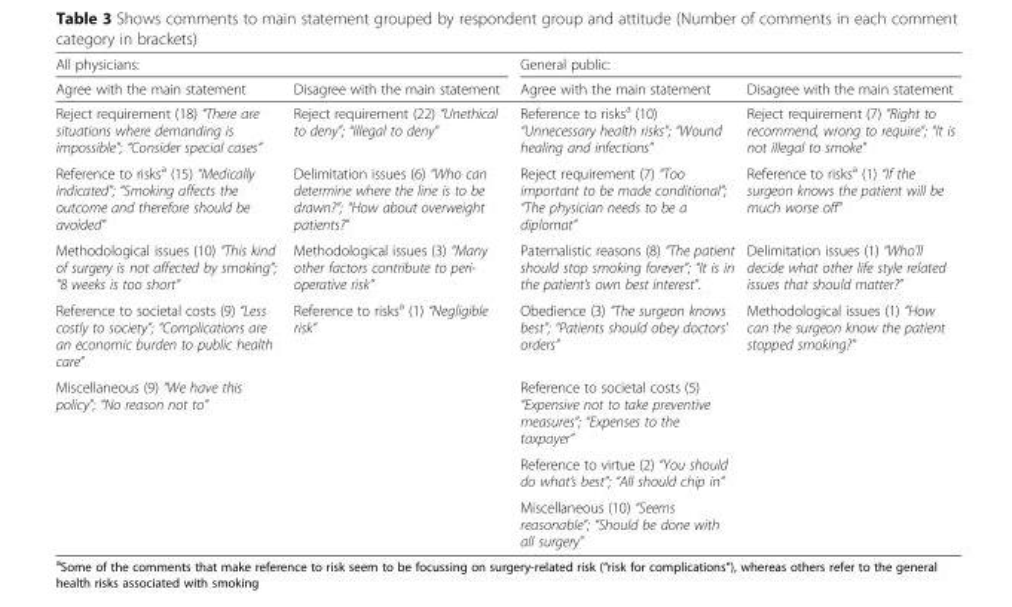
<table><thead><tr><td colspan="2">All physicians:</td><td colspan="2">General public:</td></tr><tr><td>Agree with the main statement</td><td>Disagree with the main statement</td><td>Agree with the main statement</td><td>Disagree with the main statement</td></tr></thead><tbody><tr><td>Reject requirement (18) “There are situations where demanding is impossible”; “Consider special cases”</td><td>Reject requirement (22) “Unethical to deny”; “Illegal to deny”</td><td>Reference to risks<sup>a</sup> (10) “Unnecessary health risks”; “Wound healing and infections”</td><td>Reject requirement (7) “Right to recommend, wrong to require”; “It is not illegal to smoke”</td></tr><tr><td>Reference to risks<sup>a</sup> (15) “Medically indicated”; “Smoking affects the outcome and therefore should be avoided”</td><td>Delimitation issues (6) “Who can determine where the line is to be drawn?”; “How about overweight patients?”</td><td>Reject requirement (7) “Too important to be made conditional”; “The physician needs to be a diplomat”</td><td>Reference to risks<sup>a</sup> (1) “If the surgeon knows the patient will be much worse off”</td></tr><tr><td>Methodological issues (10) “This kind of surgery is not affected by smoking”; “8 weeks is too short”</td><td>Methodological issues (3) “Many other factors contribute to peri- operative risk”</td><td>Paternalistic reasons (8) “The patient should stop smoking forever”; “It is in the patient’s own best interest”.</td><td>Delimitation issues (1) “Who’ll decide what other life style related issues that should matter?”</td></tr><tr><td>Reference to societal costs (9) “Less costly to society”; “Complications are an economic burden to public health care”</td><td>Reference to risks<sup>a</sup> (1) “Negligible risk”</td><td>Obedience (3) “The surgeon knows best”; “Patients should obey doctors’ orders”</td><td>Methodological issues (1) “How can the surgeon know the patient stopped smoking?”</td></tr><tr><td rowspan="3">Miscellaneous (9) “We have this policy”; “No reason not to”</td><td></td><td>Reference to societal costs (5) “Expensive not to take preventive measures”; “Expenses to the taxpayer”</td><td></td></tr><tr><td></td><td>Reference to virtue (2) “You should do what’s best”; “All should chip in”</td><td></td></tr><tr><td></td><td>Miscellaneous (10) “Seems reasonable”; “Should be done with all surgery”</td><td></td></tr></tbody></table>